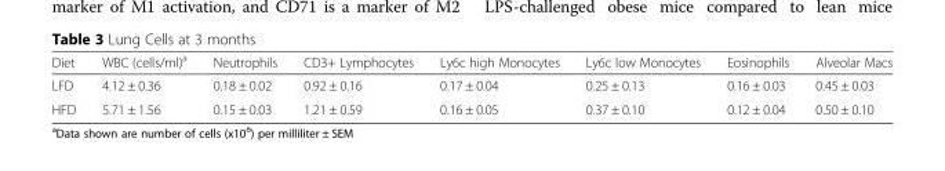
<table><thead><tr><td>Diet</td><td>WBC (cells/ml)<sup>a</sup></td><td>Neutrophils</td><td>CD3+ Lymphocytes</td><td>Ly6c high Monocytes</td><td>Ly6c low Monocytes</td><td>Eosinophils</td><td>Alveolar Macs</td></tr></thead><tbody><tr><td>LFD</td><td>4.12 ± 0.36</td><td>0.18 ± 0.02</td><td>0.92 ± 0.16</td><td>0.17 ± 0.04</td><td>0.25 ± 0.13</td><td>0.16 ± 0.03</td><td>0.45 ± 0.03</td></tr><tr><td>HFD</td><td>5.71 ± 1.56</td><td>0.15 ± 0.03</td><td>1.21 ± 0.59</td><td>0.16 ± 0.05</td><td>0.37 ± 0.10</td><td>0.12 ± 0.04</td><td>0.50 ± 0.10</td></tr></tbody></table>